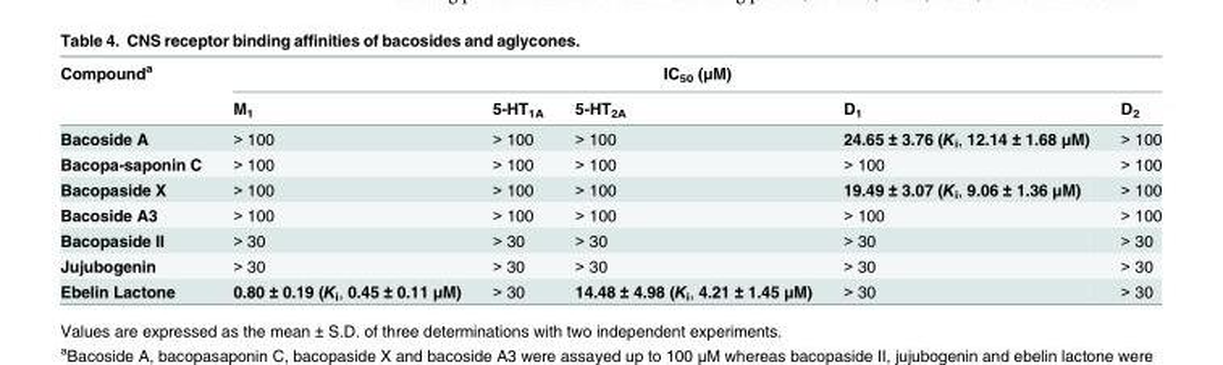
<table><thead><tr><td rowspan="2">Compound<sup>a</sup></td><td colspan="5">IC<sub>50</sub> (μM)</td></tr><tr><td>M<sub>1</sub></td><td>5-HT<sub>1A</sub></td><td>5-HT<sub>2A</sub></td><td>D<sub>1</sub></td><td>D<sub>2</sub></td></tr></thead><tbody><tr><td>Bacoside A</td><td>&gt; 100</td><td>&gt; 100</td><td>&gt; 100</td><td>24.65 ± 3.76 (K<sub>i</sub>, 12.14 ± 1.68 μM)</td><td>&gt; 100</td></tr><tr><td>Bacopa-saponin C</td><td>&gt; 100</td><td>&gt; 100</td><td>&gt; 100</td><td>&gt; 100</td><td>&gt; 100</td></tr><tr><td>Bacopaside X</td><td>&gt; 100</td><td>&gt; 100</td><td>&gt; 100</td><td>19.49 ± 3.07 (K<sub>i</sub>, 9.06 ± 1.36 μM)</td><td>&gt; 100</td></tr><tr><td>Bacoside A3</td><td>&gt; 100</td><td>&gt; 100</td><td>&gt; 100</td><td>&gt; 100</td><td>&gt; 100</td></tr><tr><td>Bacopaside II</td><td>&gt; 30</td><td>&gt; 30</td><td>&gt; 30</td><td>&gt; 30</td><td>&gt; 30</td></tr><tr><td>Jujubogenin</td><td>&gt; 30</td><td>&gt; 30</td><td>&gt; 30</td><td>&gt; 30</td><td>&gt; 30</td></tr><tr><td>Ebelin Lactone</td><td>0.80 ± 0.19 (K<sub>i</sub>, 0.45 ± 0.11 μM)</td><td>&gt; 30</td><td>14.48 ± 4.98 (K<sub>i</sub>, 4.21 ± 1.45 μM)</td><td>&gt; 30</td><td>&gt; 30</td></tr></tbody></table>